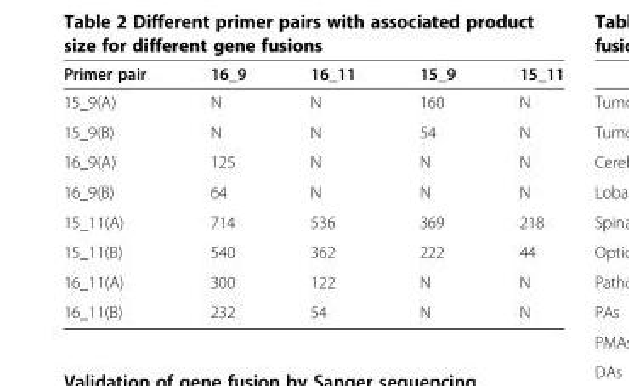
<table><thead><tr><td>Primer pair</td><td>16_9</td><td>16_11</td><td>15_9</td><td>15_11</td></tr></thead><tbody><tr><td>15_9(A)</td><td>N</td><td>N</td><td>160</td><td>N</td></tr><tr><td>15_9(B)</td><td>N</td><td>N</td><td>54</td><td>N</td></tr><tr><td>16_9(A)</td><td>125</td><td>N</td><td>N</td><td>N</td></tr><tr><td>16_9(B)</td><td>64</td><td>N</td><td>N</td><td>N</td></tr><tr><td>15_11(A)</td><td>714</td><td>536</td><td>369</td><td>218</td></tr><tr><td>15_11(B)</td><td>540</td><td>362</td><td>222</td><td>44</td></tr><tr><td>16_11(A)</td><td>300</td><td>122</td><td>N</td><td>N</td></tr><tr><td>16_11(B)</td><td>232</td><td>54</td><td>N</td><td>N</td></tr></tbody></table>